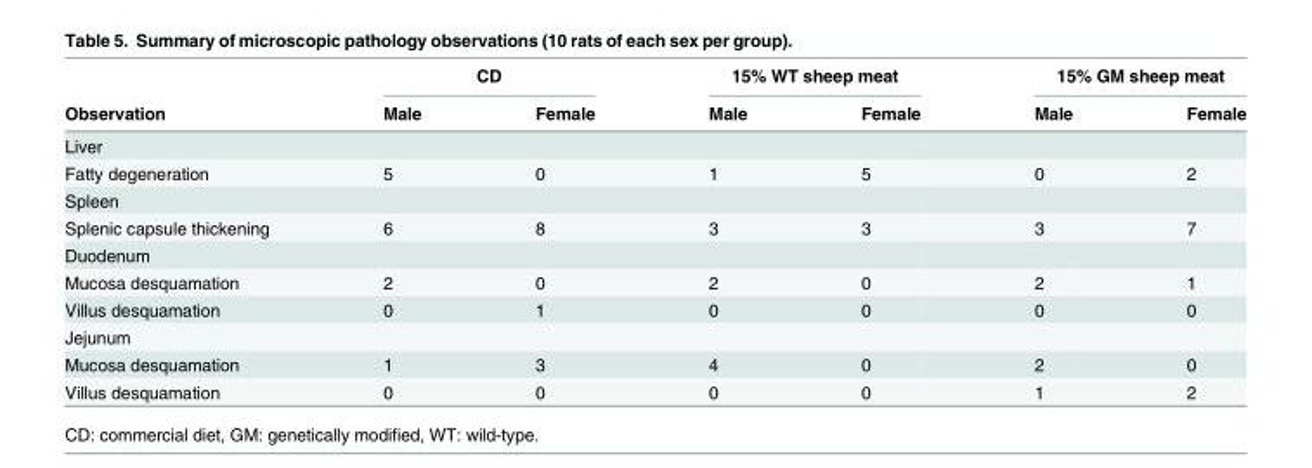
<table><thead><tr><td rowspan="2">Observation</td><td colspan="2">CD</td><td colspan="2">15% WT sheep meat</td><td colspan="2">15% GM sheep meat</td></tr><tr><td>Male</td><td>Female</td><td>Male</td><td>Female</td><td>Male</td><td>Female</td></tr></thead><tbody><tr><td colspan="7">Liver</td></tr><tr><td>Fatty degeneration</td><td>5</td><td>0</td><td>1</td><td>5</td><td>0</td><td>2</td></tr><tr><td colspan="7">Spleen</td></tr><tr><td>Splenic capsule thickening</td><td>6</td><td>8</td><td>3</td><td>3</td><td>3</td><td>7</td></tr><tr><td colspan="7">Duodenum</td></tr><tr><td>Mucosa desquamation</td><td>2</td><td>0</td><td>2</td><td>0</td><td>2</td><td>1</td></tr><tr><td>Villus desquamation</td><td>0</td><td>1</td><td>0</td><td>0</td><td>0</td><td>0</td></tr><tr><td colspan="7">Jejunum</td></tr><tr><td>Mucosa desquamation</td><td>1</td><td>3</td><td>4</td><td>0</td><td>2</td><td>0</td></tr><tr><td>Villus desquamation</td><td>0</td><td>0</td><td>0</td><td>0</td><td>1</td><td>2</td></tr></tbody></table>